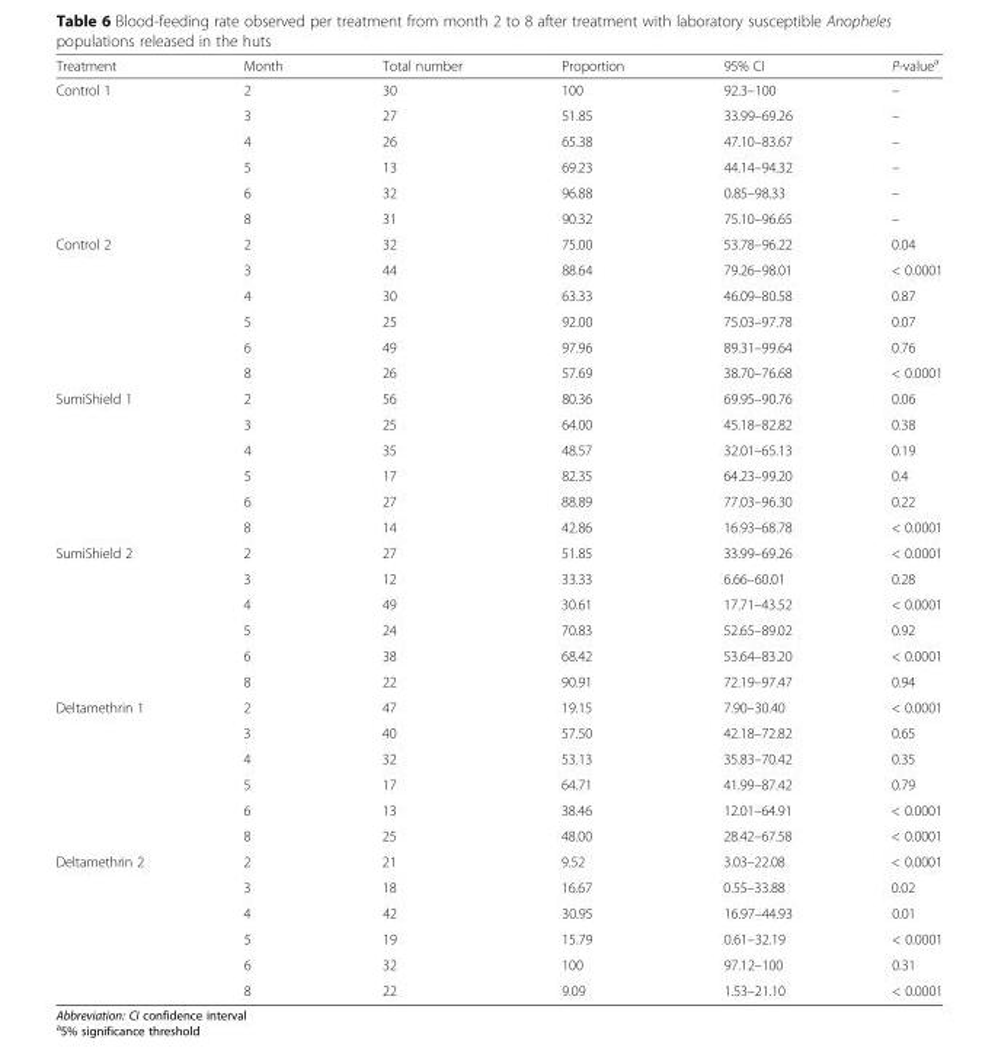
<table><thead><tr><td>Treatment</td><td>Month</td><td>Total number</td><td>Proportion</td><td>95% CI</td><td>P-value<sup>a</sup></td></tr></thead><tbody><tr><td rowspan="6">Control 1</td><td>2</td><td>30</td><td>100</td><td>92.3–100</td><td>–</td></tr><tr><td>3</td><td>27</td><td>51.85</td><td>33.99–69.26</td><td>–</td></tr><tr><td>4</td><td>26</td><td>65.38</td><td>47.10–83.67</td><td>–</td></tr><tr><td>5</td><td>13</td><td>69.23</td><td>44.14–94.32</td><td>–</td></tr><tr><td>6</td><td>32</td><td>96.88</td><td>0.85–98.33</td><td>–</td></tr><tr><td>8</td><td>31</td><td>90.32</td><td>75.10–96.65</td><td>–</td></tr><tr><td rowspan="6">Control 2</td><td>2</td><td>32</td><td>75.00</td><td>53.78–96.22</td><td>0.04</td></tr><tr><td>3</td><td>44</td><td>88.64</td><td>79.26–98.01</td><td>&lt; 0.0001</td></tr><tr><td>4</td><td>30</td><td>63.33</td><td>46.09–80.58</td><td>0.87</td></tr><tr><td>5</td><td>25</td><td>92.00</td><td>75.03–97.78</td><td>0.07</td></tr><tr><td>6</td><td>49</td><td>97.96</td><td>89.31–99.64</td><td>0.76</td></tr><tr><td>8</td><td>26</td><td>57.69</td><td>38.70–76.68</td><td>&lt; 0.0001</td></tr><tr><td rowspan="6">SumiShield 1</td><td>2</td><td>56</td><td>80.36</td><td>69.95–90.76</td><td>0.06</td></tr><tr><td>3</td><td>25</td><td>64.00</td><td>45.18–82.82</td><td>0.38</td></tr><tr><td>4</td><td>35</td><td>48.57</td><td>32.01–65.13</td><td>0.19</td></tr><tr><td>5</td><td>17</td><td>82.35</td><td>64.23–99.20</td><td>0.4</td></tr><tr><td>6</td><td>27</td><td>88.89</td><td>77.03–96.30</td><td>0.22</td></tr><tr><td>8</td><td>14</td><td>42.86</td><td>16.93–68.78</td><td>&lt; 0.0001</td></tr><tr><td rowspan="6">SumiShield 2</td><td>2</td><td>27</td><td>51.85</td><td>33.99–69.26</td><td>&lt; 0.0001</td></tr><tr><td>3</td><td>12</td><td>33.33</td><td>6.66–60.01</td><td>0.28</td></tr><tr><td>4</td><td>49</td><td>30.61</td><td>17.71–43.52</td><td>&lt; 0.0001</td></tr><tr><td>5</td><td>24</td><td>70.83</td><td>52.65–89.02</td><td>0.92</td></tr><tr><td>6</td><td>38</td><td>68.42</td><td>53.64–83.20</td><td>&lt; 0.0001</td></tr><tr><td>8</td><td>22</td><td>90.91</td><td>72.19–97.47</td><td>0.94</td></tr><tr><td rowspan="6">Deltamethrin 1</td><td>2</td><td>47</td><td>19.15</td><td>7.90–30.40</td><td>&lt; 0.0001</td></tr><tr><td>3</td><td>40</td><td>57.50</td><td>42.18–72.82</td><td>0.65</td></tr><tr><td>4</td><td>32</td><td>53.13</td><td>35.83–70.42</td><td>0.35</td></tr><tr><td>5</td><td>17</td><td>64.71</td><td>41.99–87.42</td><td>0.79</td></tr><tr><td>6</td><td>13</td><td>38.46</td><td>12.01–64.91</td><td>&lt; 0.0001</td></tr><tr><td>8</td><td>25</td><td>48.00</td><td>28.42–67.58</td><td>&lt; 0.0001</td></tr><tr><td rowspan="6">Deltamethrin 2</td><td>2</td><td>21</td><td>9.52</td><td>3.03–22.08</td><td>&lt; 0.0001</td></tr><tr><td>3</td><td>18</td><td>16.67</td><td>0.55–33.88</td><td>0.02</td></tr><tr><td>4</td><td>42</td><td>30.95</td><td>16.97–44.93</td><td>0.01</td></tr><tr><td>5</td><td>19</td><td>15.79</td><td>0.61–32.19</td><td>&lt; 0.0001</td></tr><tr><td>6</td><td>32</td><td>100</td><td>97.12–100</td><td>0.31</td></tr><tr><td>8</td><td>22</td><td>9.09</td><td>1.53–21.10</td><td>&lt; 0.0001</td></tr></tbody></table>